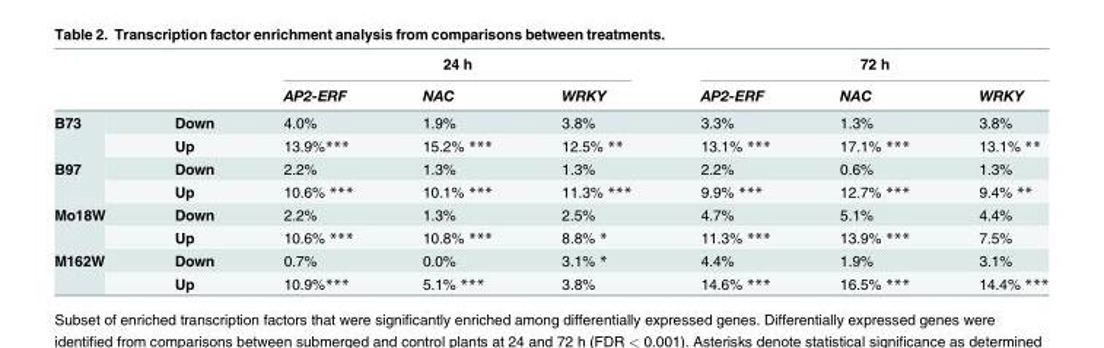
<table><thead><tr><td rowspan="2"></td><td rowspan="2"></td><td colspan="3">24 h</td><td colspan="3">72 h</td></tr><tr><td>AP2-ERF</td><td>NAC</td><td>WRKY</td><td>AP2-ERF</td><td>NAC</td><td>WRKY</td></tr></thead><tbody><tr><td rowspan="2">B73</td><td>Down</td><td>4.0%</td><td>1.9%</td><td>3.8%</td><td>3.3%</td><td>1.3%</td><td>3.8%</td></tr><tr><td>Up</td><td>13.9%***</td><td>15.2% ***</td><td>12.5% **</td><td>13.1% ***</td><td>17.1% ***</td><td>13.1% **</td></tr><tr><td rowspan="2">B97</td><td>Down</td><td>2.2%</td><td>1.3%</td><td>1.3%</td><td>2.2%</td><td>0.6%</td><td>1.3%</td></tr><tr><td>Up</td><td>10.6% ***</td><td>10.1% ***</td><td>11.3% ***</td><td>9.9% ***</td><td>12.7% ***</td><td>9.4% **</td></tr><tr><td rowspan="2">Mo18W</td><td>Down</td><td>2.2%</td><td>1.3%</td><td>2.5%</td><td>4.7%</td><td>5.1%</td><td>4.4%</td></tr><tr><td>Up</td><td>10.6% ***</td><td>10.8% ***</td><td>8.8% *</td><td>11.3% ***</td><td>13.9% ***</td><td>7.5%</td></tr><tr><td rowspan="2">M162W</td><td>Down</td><td>0.7%</td><td>0.0%</td><td>3.1% *</td><td>4.4%</td><td>1.9%</td><td>3.1%</td></tr><tr><td>Up</td><td>10.9%***</td><td>5.1% ***</td><td>3.8%</td><td>14.6% ***</td><td>16.5% ***</td><td>14.4% ***</td></tr></tbody></table>